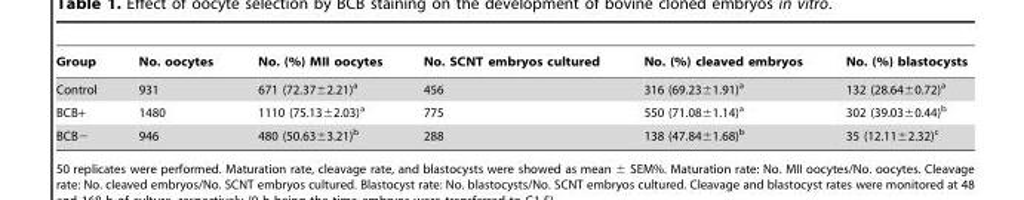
<table><thead><tr><td>Group</td><td>No. oocytes</td><td>No. (%) MII oocytes</td><td>No. SCNT embryos cultured</td><td>No. (%) cleaved embryos</td><td>No. (%) blastocysts</td></tr></thead><tbody><tr><td>Control</td><td>931</td><td>671 (72.37±2.21)<sup>a</sup></td><td>456</td><td>316 (69.23±1.91)<sup>a</sup></td><td>132 (28.64±0.72)<sup>a</sup></td></tr><tr><td>BCB+</td><td>1480</td><td>1110 (75.13±2.03)<sup>a</sup></td><td>775</td><td>550 (71.08±1.14)<sup>a</sup></td><td>302 (39.03±0.44)<sup>b</sup></td></tr><tr><td>BCB−</td><td>946</td><td>480 (50.63±3.21)<sup>b</sup></td><td>288</td><td>138 (47.84±1.68)<sup>b</sup></td><td>35 (12.11±2.32)<sup>c</sup></td></tr></tbody></table>